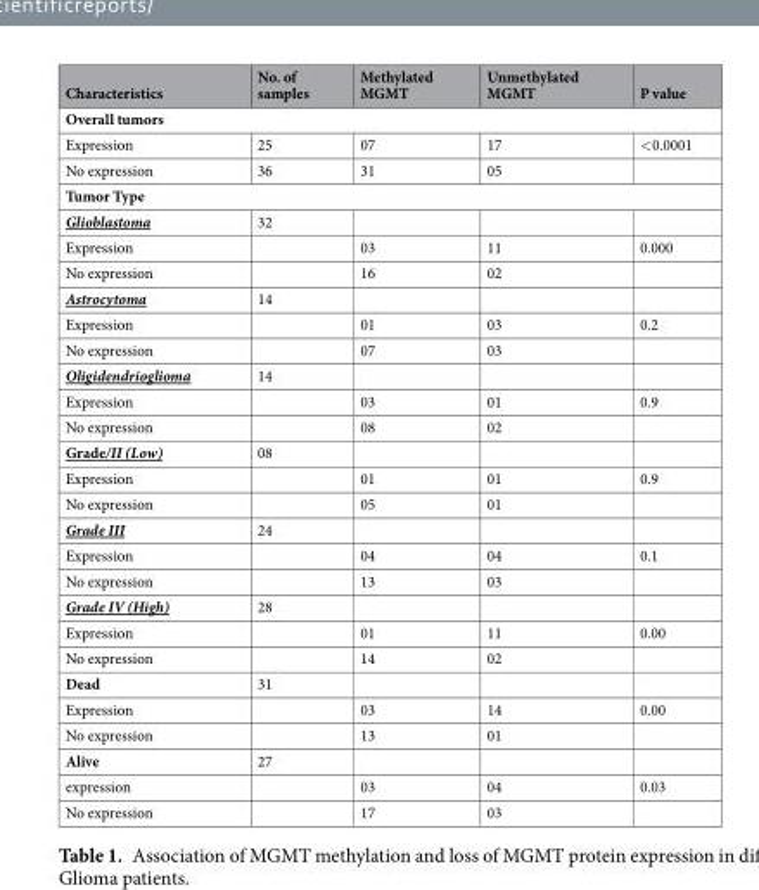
<table><thead><tr><td>Characteristics</td><td>No. of samples</td><td>Methylated MGMT</td><td>Unmethylated MGMT</td><td>P value</td></tr></thead><tbody><tr><td colspan="5">Overall tumors</td></tr><tr><td>Expression</td><td>25</td><td>07</td><td>17</td><td>&lt;0.0001</td></tr><tr><td>No expression</td><td>36</td><td>31</td><td>05</td><td></td></tr><tr><td colspan="5">Tumor Type</td></tr><tr><td>Glioblastoma</td><td>32</td><td></td><td></td><td></td></tr><tr><td>Expression</td><td></td><td>03</td><td>11</td><td>0.000</td></tr><tr><td>No expression</td><td></td><td>16</td><td>02</td><td></td></tr><tr><td>Astrocytoma</td><td>14</td><td></td><td></td><td></td></tr><tr><td>Expression</td><td></td><td>01</td><td>03</td><td>0.2</td></tr><tr><td>No expression</td><td></td><td>07</td><td>03</td><td></td></tr><tr><td>Oligidendrioglioma</td><td>14</td><td></td><td></td><td></td></tr><tr><td>Expression</td><td></td><td>03</td><td>01</td><td>0.9</td></tr><tr><td>No expression</td><td></td><td>08</td><td>02</td><td></td></tr><tr><td>Grade/II (Low)</td><td>08</td><td></td><td></td><td></td></tr><tr><td>Expression</td><td></td><td>01</td><td>01</td><td>0.9</td></tr><tr><td>No expression</td><td></td><td>05</td><td>01</td><td></td></tr><tr><td>Grade III</td><td>24</td><td></td><td></td><td></td></tr><tr><td>Expression</td><td></td><td>04</td><td>04</td><td>0.1</td></tr><tr><td>No expression</td><td></td><td>13</td><td>03</td><td></td></tr><tr><td>Grade IV (High)</td><td>28</td><td></td><td></td><td></td></tr><tr><td>Expression</td><td></td><td>01</td><td>11</td><td>0.00</td></tr><tr><td>No expression</td><td></td><td>14</td><td>02</td><td></td></tr><tr><td>Dead</td><td>31</td><td></td><td></td><td></td></tr><tr><td>Expression</td><td></td><td>03</td><td>14</td><td>0.00</td></tr><tr><td>No expression</td><td></td><td>13</td><td>01</td><td></td></tr><tr><td>Alive</td><td>27</td><td></td><td></td><td></td></tr><tr><td>expression</td><td></td><td>03</td><td>04</td><td>0.03</td></tr><tr><td>No expression</td><td></td><td>17</td><td>03</td><td></td></tr></tbody></table>